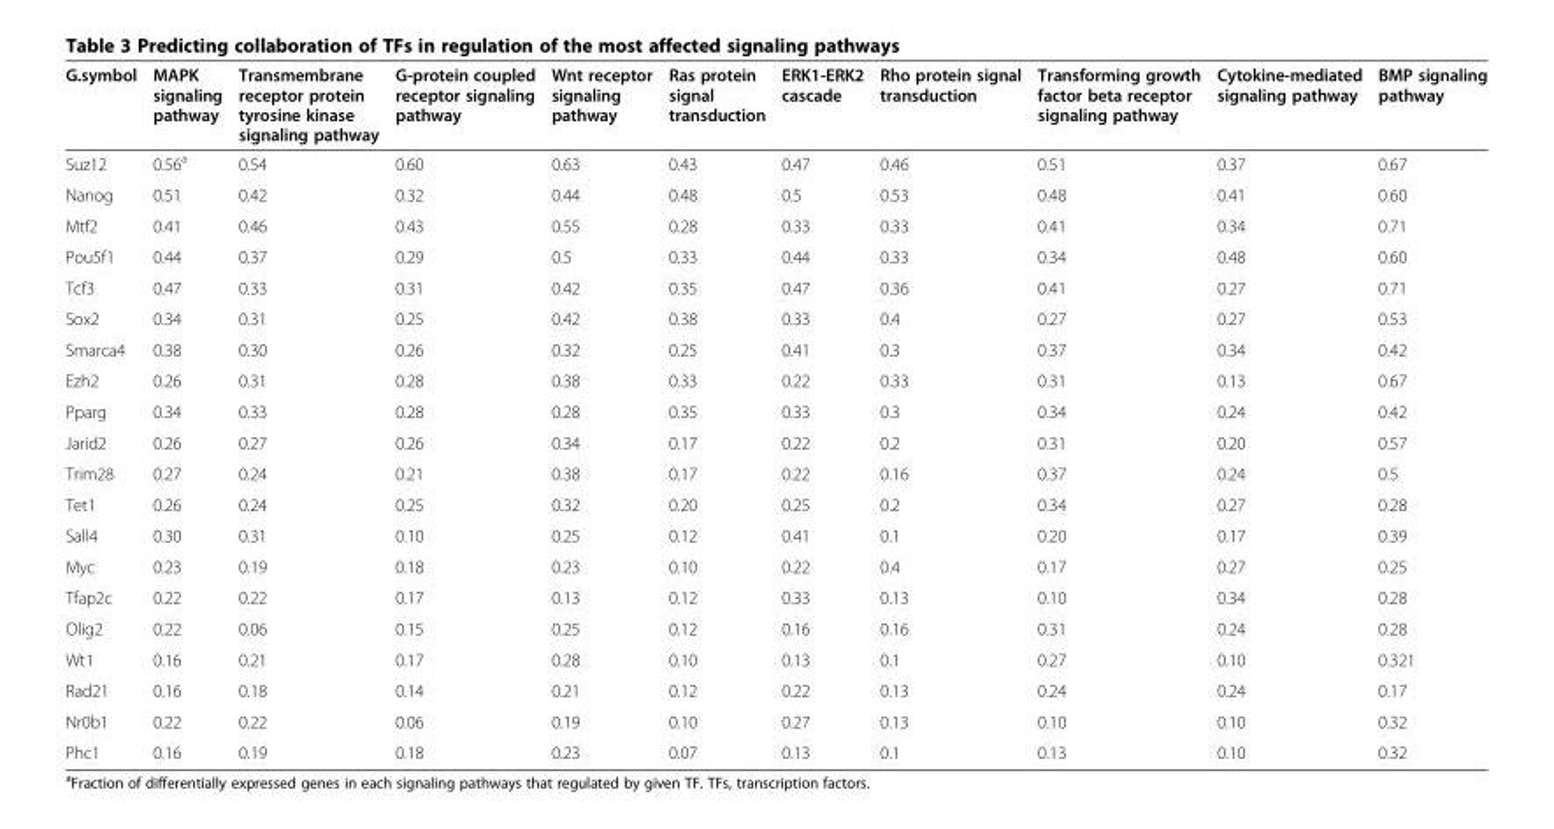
<table><thead><tr><td>G.symbol</td><td>MAPK signaling pathway</td><td>Transmembrane receptor protein tyrosine kinase signaling pathway</td><td>G-protein coupled receptor signaling pathway</td><td>Wnt receptor signaling pathway</td><td>Ras protein signal transduction</td><td>ERK1-ERK2 cascade</td><td>Rho protein signal transduction</td><td>Transforming growth factor beta receptor signaling pathway</td><td>Cytokine-mediated signaling pathway</td><td>BMP signaling pathway</td></tr></thead><tbody><tr><td>Suz12</td><td>0.56<sup>a</sup></td><td>0.54</td><td>0.60</td><td>0.63</td><td>0.43</td><td>0.47</td><td>0.46</td><td>0.51</td><td>0.37</td><td>0.67</td></tr><tr><td>Nanog</td><td>0.51</td><td>0.42</td><td>0.32</td><td>0.44</td><td>0.48</td><td>0.5</td><td>0.53</td><td>0.48</td><td>0.41</td><td>0.60</td></tr><tr><td>Mtf2</td><td>0.41</td><td>0.46</td><td>0.43</td><td>0.55</td><td>0.28</td><td>0.33</td><td>0.33</td><td>0.41</td><td>0.34</td><td>0.71</td></tr><tr><td>Pou5f1</td><td>0.44</td><td>0.37</td><td>0.29</td><td>0.5</td><td>0.33</td><td>0.44</td><td>0.33</td><td>0.34</td><td>0.48</td><td>0.60</td></tr><tr><td>Tcf3</td><td>0.47</td><td>0.33</td><td>0.31</td><td>0.42</td><td>0.35</td><td>0.47</td><td>0.36</td><td>0.41</td><td>0.27</td><td>0.71</td></tr><tr><td>Sox2</td><td>0.34</td><td>0.31</td><td>0.25</td><td>0.42</td><td>0.38</td><td>0.33</td><td>0.4</td><td>0.27</td><td>0.27</td><td>0.53</td></tr><tr><td>Smarca4</td><td>0.38</td><td>0.30</td><td>0.26</td><td>0.32</td><td>0.25</td><td>0.41</td><td>0.3</td><td>0.37</td><td>0.34</td><td>0.42</td></tr><tr><td>Ezh2</td><td>0.26</td><td>0.31</td><td>0.28</td><td>0.38</td><td>0.33</td><td>0.22</td><td>0.33</td><td>0.31</td><td>0.13</td><td>0.67</td></tr><tr><td>Pparg</td><td>0.34</td><td>0.33</td><td>0.28</td><td>0.28</td><td>0.35</td><td>0.33</td><td>0.3</td><td>0.34</td><td>0.24</td><td>0.42</td></tr><tr><td>Jarid2</td><td>0.26</td><td>0.27</td><td>0.26</td><td>0.34</td><td>0.17</td><td>0.22</td><td>0.2</td><td>0.31</td><td>0.20</td><td>0.57</td></tr><tr><td>Trim28</td><td>0.27</td><td>0.24</td><td>0.21</td><td>0.38</td><td>0.17</td><td>0.22</td><td>0.16</td><td>0.37</td><td>0.24</td><td>0.5</td></tr><tr><td>Tet1</td><td>0.26</td><td>0.24</td><td>0.25</td><td>0.32</td><td>0.20</td><td>0.25</td><td>0.2</td><td>0.34</td><td>0.27</td><td>0.28</td></tr><tr><td>Sall4</td><td>0.30</td><td>0.31</td><td>0.10</td><td>0.25</td><td>0.12</td><td>0.41</td><td>0.1</td><td>0.20</td><td>0.17</td><td>0.39</td></tr><tr><td>Myc</td><td>0.23</td><td>0.19</td><td>0.18</td><td>0.23</td><td>0.10</td><td>0.22</td><td>0.4</td><td>0.17</td><td>0.27</td><td>0.25</td></tr><tr><td>Tfap2c</td><td>0.22</td><td>0.22</td><td>0.17</td><td>0.13</td><td>0.12</td><td>0.33</td><td>0.13</td><td>0.10</td><td>0.34</td><td>0.28</td></tr><tr><td>Olig2</td><td>0.22</td><td>0.06</td><td>0.15</td><td>0.25</td><td>0.12</td><td>0.16</td><td>0.16</td><td>0.31</td><td>0.24</td><td>0.28</td></tr><tr><td>Wt1</td><td>0.16</td><td>0.21</td><td>0.17</td><td>0.28</td><td>0.10</td><td>0.13</td><td>0.1</td><td>0.27</td><td>0.10</td><td>0.321</td></tr><tr><td>Rad21</td><td>0.16</td><td>0.18</td><td>0.14</td><td>0.21</td><td>0.12</td><td>0.22</td><td>0.13</td><td>0.24</td><td>0.24</td><td>0.17</td></tr><tr><td>Nr0b1</td><td>0.22</td><td>0.22</td><td>0.06</td><td>0.19</td><td>0.10</td><td>0.27</td><td>0.13</td><td>0.10</td><td>0.10</td><td>0.32</td></tr><tr><td>Phc1</td><td>0.16</td><td>0.19</td><td>0.18</td><td>0.23</td><td>0.07</td><td>0.13</td><td>0.1</td><td>0.13</td><td>0.10</td><td>0.32</td></tr></tbody></table>